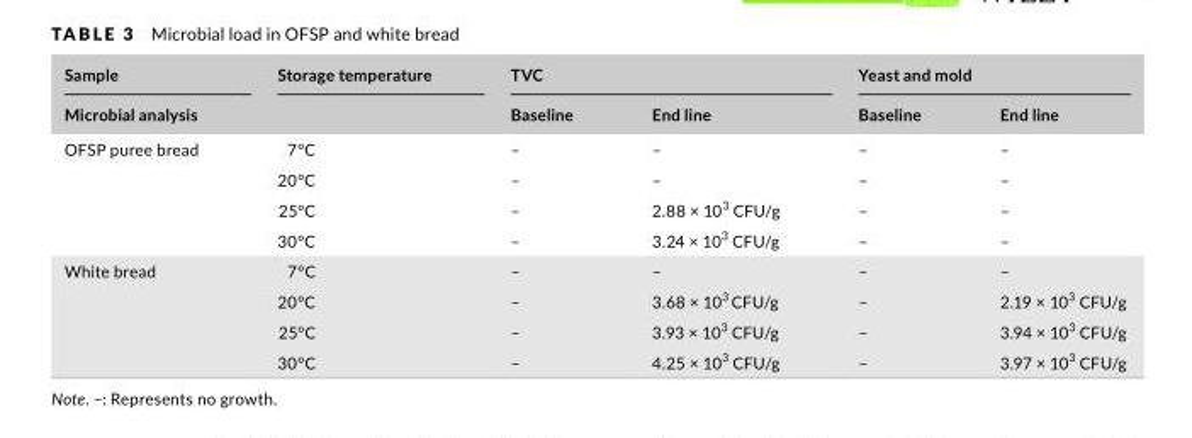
<table><thead><tr><td>Sample</td><td>Storage temperature</td><td colspan="2">TVC</td><td colspan="2">Yeast and mold</td></tr><tr><td colspan="2">Microbial analysis</td><td>Baseline</td><td>End line</td><td>Baseline</td><td>End line</td></tr></thead><tbody><tr><td rowspan="4">OFSP puree bread</td><td>7°C</td><td>–</td><td>–</td><td>–</td><td>–</td></tr><tr><td>20°C</td><td>–</td><td>–</td><td>–</td><td>–</td></tr><tr><td>25°C</td><td>–</td><td>2.88 × 10<sup>3</sup> CFU/g</td><td>–</td><td>–</td></tr><tr><td>30°C</td><td>–</td><td>3.24 × 10<sup>3</sup> CFU/g</td><td>–</td><td>–</td></tr><tr><td rowspan="4">White bread</td><td>7°C</td><td>–</td><td>–</td><td>–</td><td>–</td></tr><tr><td>20°C</td><td>–</td><td>3.68 × 10<sup>3</sup> CFU/g</td><td>–</td><td>2.19 × 10<sup>3</sup> CFU/g</td></tr><tr><td>25°C</td><td>–</td><td>3.93 × 10<sup>3</sup> CFU/g</td><td>–</td><td>3.94 × 10<sup>3</sup> CFU/g</td></tr><tr><td>30°C</td><td>–</td><td>4.25 × 10<sup>3</sup> CFU/g</td><td>–</td><td>3.97 × 10<sup>3</sup> CFU/g</td></tr></tbody></table>